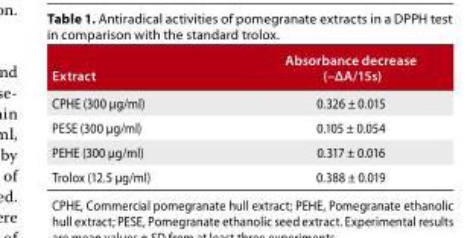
<table><thead><tr><td>Extract</td><td>Absorbance decrease (–ΔA/15s)</td></tr></thead><tbody><tr><td>CPHE (300 μg/ml)</td><td>0.326 ± 0.015</td></tr><tr><td>PESE (300 μg/ml)</td><td>0.105 ± 0.054</td></tr><tr><td>PEHE (300 μg/ml)</td><td>0.317 ± 0.016</td></tr><tr><td>Trolox (12.5 μg/ml)</td><td>0.388 ± 0.019</td></tr></tbody></table>